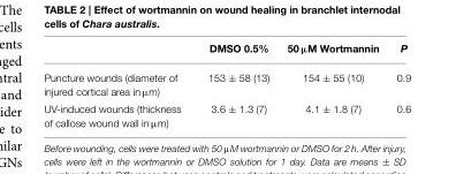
<table><thead><tr><td></td><td>DMSO 0.5%</td><td>50 µM Wortmannin</td><td>P</td></tr></thead><tbody><tr><td>Puncture wounds (diameter of injured cortical area in µm)</td><td>153 ± 58 (13)</td><td>154 ± 55 (10)</td><td>0.9</td></tr><tr><td>UV-induced wounds (thickness of callose wound wall in µm)</td><td>3.6 ± 1.3 (7)</td><td>4.1 ± 1.8 (7)</td><td>0.6</td></tr></tbody></table>